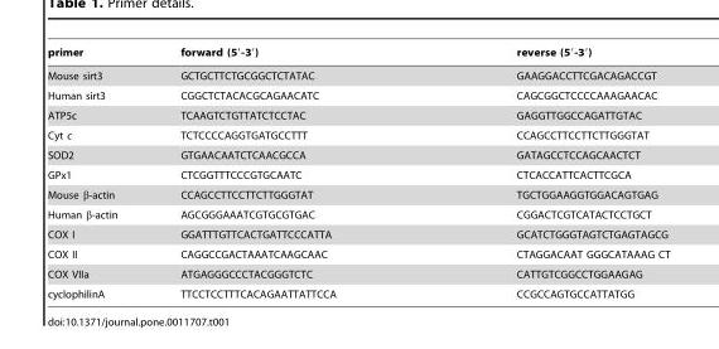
<table><thead><tr><td>primer</td><td>forward (5′-3′)</td><td>reverse (5′-3′)</td></tr></thead><tbody><tr><td>Mouse sirt3</td><td>GCTGCTTCTGCGGCTCTATAC</td><td>GAAGGACCTTCGACAGACCGT</td></tr><tr><td>Human sirt3</td><td>CGGCTCTACACGCAGAACATC</td><td>CAGCGGCTCCCCAAAGAACAC</td></tr><tr><td>ATP5c</td><td>TCAAGTCTGTTATCTCCTAC</td><td>GAGGTTGGCCAGATTGTAC</td></tr><tr><td>Cyt c</td><td>TCTCCCCAGGTGATGCCTTT</td><td>CCAGCCTTCCTTCTTGGGTAT</td></tr><tr><td>SOD2</td><td>GTGAACAATCTCAACGCCA</td><td>GATAGCCTCCAGCAACTCT</td></tr><tr><td>GPx1</td><td>CTCGGTTTCCCGTGCAATC</td><td>CTCACCATTCACTTCGCA</td></tr><tr><td>Mouse β-actin</td><td>CCAGCCTTCCTTCTTGGGTAT</td><td>TGCTGGAAGGTGGACAGTGAG</td></tr><tr><td>Human β-actin</td><td>AGCGGGAAATCGTGCGTGAC</td><td>CGGACTCGTCATACTCCTGCT</td></tr><tr><td>COX I</td><td>GGATTTGTTCACTGATTCCCATTA</td><td>GCATCTGGGTAGTCTGAGTAGCG</td></tr><tr><td>COX II</td><td>CAGGCCGACTAAATCAAGCAAC</td><td>CTAGGACAAT GGGCATAAAG CT</td></tr><tr><td>COX VIIa</td><td>ATGAGGGCCCTACGGGTCTC</td><td>CATTGTCGGCCTGGAAGAG</td></tr><tr><td>cyclophilinA</td><td>TTCCTCCTTTCACAGAATTATTCCA</td><td>CCGCCAGTGCCATTATGG</td></tr></tbody></table>